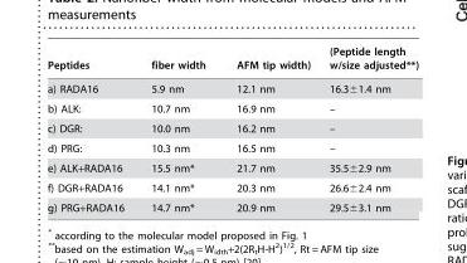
<table><thead><tr><td>Peptides</td><td>fiber width</td><td>AFM tip width)</td><td>(Peptide length w/size adjusted**)</td></tr></thead><tbody><tr><td>a) RADA16</td><td>5.9 nm</td><td>12.1 nm</td><td>16.3±1.4 nm</td></tr><tr><td>b) ALK:</td><td>10.7 nm</td><td>16.9 nm</td><td>–</td></tr><tr><td>c) DGR:</td><td>10.0 nm</td><td>16.2 nm</td><td>–</td></tr><tr><td>d) PRG:</td><td>10.3 nm</td><td>16.5 nm</td><td>–</td></tr><tr><td>e) ALK+RADA16</td><td>15.5 nm*</td><td>21.7 nm</td><td>35.5±2.9 nm</td></tr><tr><td>f) DGR+RADA16</td><td>14.1 nm*</td><td>20.3 nm</td><td>26.6±2.4 nm</td></tr><tr><td>g) PRG+RADA16</td><td>14.7 nm*</td><td>20.9 nm</td><td>29.5±3.1 nm</td></tr></tbody></table>